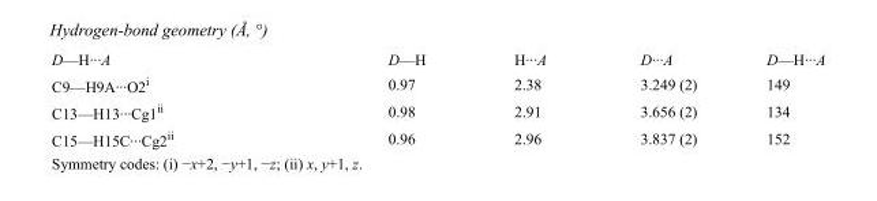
<table><tbody><tr><td>D—H···A</td><td>D—H</td><td>H···A</td><td>D···A</td><td>D—H···A</td></tr><tr><td>C9—H9A···O2<sup>i</sup></td><td>0.97</td><td>2.38</td><td>3.249 (2)</td><td>149</td></tr><tr><td>C13—H13···Cg1<sup>ii</sup></td><td>0.98</td><td>2.91</td><td>3.656 (2)</td><td>134</td></tr><tr><td>C15—H15C···Cg2<sup>ii</sup></td><td>0.96</td><td>2.96</td><td>3.837 (2)</td><td>152</td></tr></tbody></table>